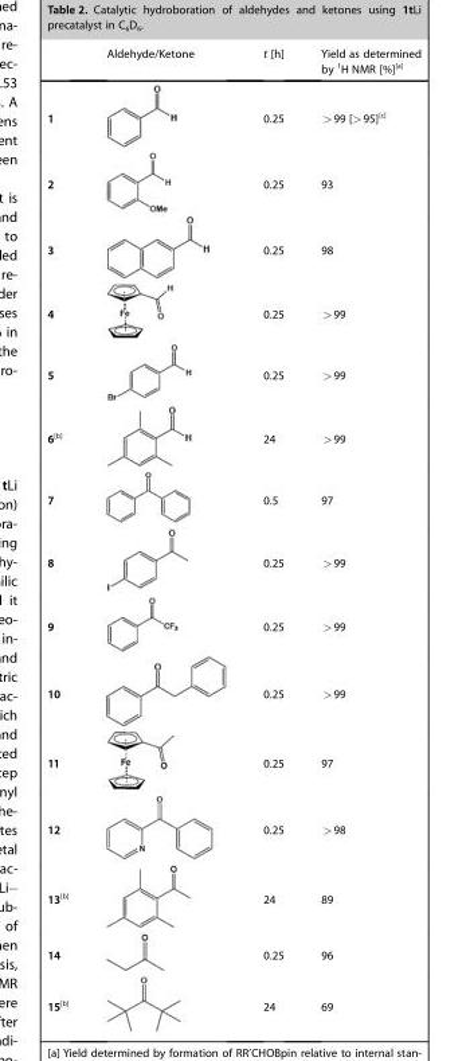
<table><thead><tr><td></td><td>Aldehyde/Ketone</td><td>t [h]</td><td>Yield as determined by <sup>1</sup>H NMR [%]<sup>[a]</sup></td></tr></thead><tbody><tr><td>1</td><td></td><td>0.25</td><td>&gt;99 [&gt;95]<sup>[c]</sup></td></tr><tr><td>2</td><td></td><td>0.25</td><td>93</td></tr><tr><td>3</td><td></td><td>0.25</td><td>98</td></tr><tr><td>4</td><td></td><td>0.25</td><td>&gt;99</td></tr><tr><td>5</td><td></td><td>0.25</td><td>&gt;99</td></tr><tr><td>6<sup>[b]</sup></td><td></td><td>24</td><td>&gt;99</td></tr><tr><td>7</td><td></td><td>0.5</td><td>97</td></tr><tr><td>8</td><td></td><td>0.25</td><td>&gt;99</td></tr><tr><td>9</td><td></td><td>0.25</td><td>&gt;99</td></tr><tr><td>10</td><td></td><td>0.25</td><td>&gt;99</td></tr><tr><td>11</td><td></td><td>0.25</td><td>97</td></tr><tr><td>12</td><td></td><td>0.25</td><td>&gt;98</td></tr><tr><td>13<sup>[b]</sup></td><td></td><td>24</td><td>89</td></tr><tr><td>14</td><td></td><td>0.25</td><td>96</td></tr><tr><td>15<sup>[b]</sup></td><td></td><td>24</td><td>69</td></tr></tbody></table>